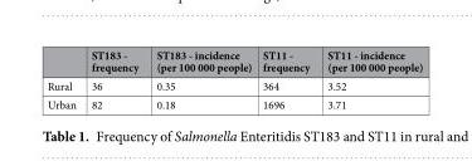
<table><thead><tr><td></td><td>ST183 - frequency</td><td>ST183 - incidence (per 100 000 people)</td><td>ST11 - frequency</td><td>ST11 - incidence (per 100 000 people)</td></tr></thead><tbody><tr><td>Rural</td><td>36</td><td>0.35</td><td>364</td><td>3.52</td></tr><tr><td>Urban</td><td>82</td><td>0.18</td><td>1696</td><td>3.71</td></tr></tbody></table>